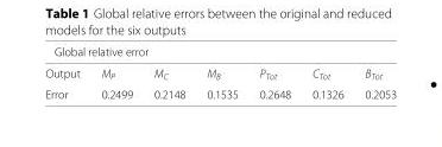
<table><thead><tr><td colspan="7">Global relative error</td></tr><tr><td>Output</td><td>M<sub>P</sub></td><td>M<sub>C</sub></td><td>M<sub>B</sub></td><td>P<sub>Tot</sub></td><td>C<sub>Tot</sub></td><td>B<sub>Tot</sub></td></tr></thead><tbody><tr><td>Error</td><td>0.2499</td><td>0.2148</td><td>0.1535</td><td>0.2648</td><td>0.1326</td><td>0.2053</td></tr></tbody></table>